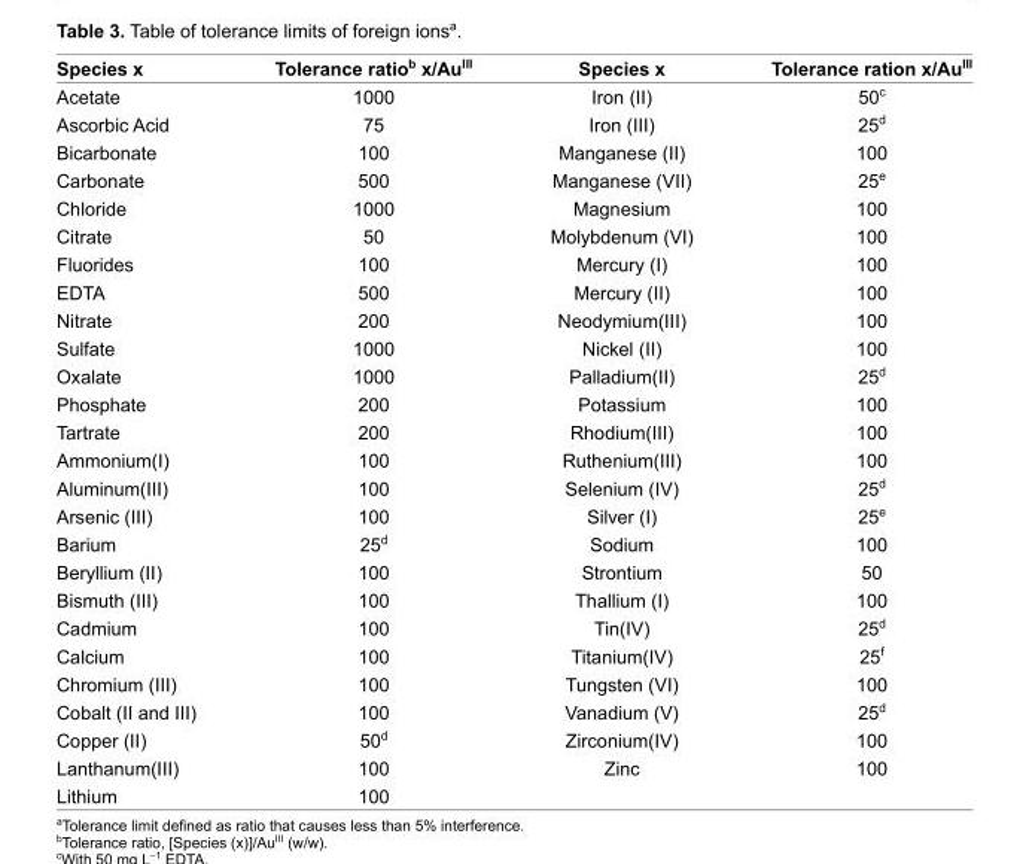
<table><thead><tr><td>Species x</td><td>Tolerance ratio<sup>b</sup> x/Au<sup>III</sup></td><td>Species x</td><td>Tolerance ration x/Au<sup>III</sup></td></tr></thead><tbody><tr><td>Acetate</td><td>1000</td><td>Iron (II)</td><td>50<sup>c</sup></td></tr><tr><td>Ascorbic Acid</td><td>75</td><td>Iron (III)</td><td>25<sup>d</sup></td></tr><tr><td>Bicarbonate</td><td>100</td><td>Manganese (II)</td><td>100</td></tr><tr><td>Carbonate</td><td>500</td><td>Manganese (VII)</td><td>25<sup>e</sup></td></tr><tr><td>Chloride</td><td>1000</td><td>Magnesium</td><td>100</td></tr><tr><td>Citrate</td><td>50</td><td>Molybdenum (VI)</td><td>100</td></tr><tr><td>Fluorides</td><td>100</td><td>Mercury (I)</td><td>100</td></tr><tr><td>EDTA</td><td>500</td><td>Mercury (II)</td><td>100</td></tr><tr><td>Nitrate</td><td>200</td><td>Neodymium(III)</td><td>100</td></tr><tr><td>Sulfate</td><td>1000</td><td>Nickel (II)</td><td>100</td></tr><tr><td>Oxalate</td><td>1000</td><td>Palladium(II)</td><td>25<sup>d</sup></td></tr><tr><td>Phosphate</td><td>200</td><td>Potassium</td><td>100</td></tr><tr><td>Tartrate</td><td>200</td><td>Rhodium(III)</td><td>100</td></tr><tr><td>Ammonium(I)</td><td>100</td><td>Ruthenium(III)</td><td>100</td></tr><tr><td>Aluminum(III)</td><td>100</td><td>Selenium (IV)</td><td>25<sup>d</sup></td></tr><tr><td>Arsenic (III)</td><td>100</td><td>Silver (I)</td><td>25<sup>e</sup></td></tr><tr><td>Barium</td><td>25<sup>d</sup></td><td>Sodium</td><td>100</td></tr><tr><td>Beryllium (II)</td><td>100</td><td>Strontium</td><td>50</td></tr><tr><td>Bismuth (III)</td><td>100</td><td>Thallium (I)</td><td>100</td></tr><tr><td>Cadmium</td><td>100</td><td>Tin(IV)</td><td>25<sup>d</sup></td></tr><tr><td>Calcium</td><td>100</td><td>Titanium(IV)</td><td>25<sup>f</sup></td></tr><tr><td>Chromium (III)</td><td>100</td><td>Tungsten (VI)</td><td>100</td></tr><tr><td>Cobalt (II and III)</td><td>100</td><td>Vanadium (V)</td><td>25<sup>d</sup></td></tr><tr><td>Copper (II)</td><td>50<sup>d</sup></td><td>Zirconium(IV)</td><td>100</td></tr><tr><td>Lanthanum(III)</td><td>100</td><td>Zinc</td><td>100</td></tr><tr><td>Lithium</td><td>100</td><td></td><td></td></tr></tbody></table>